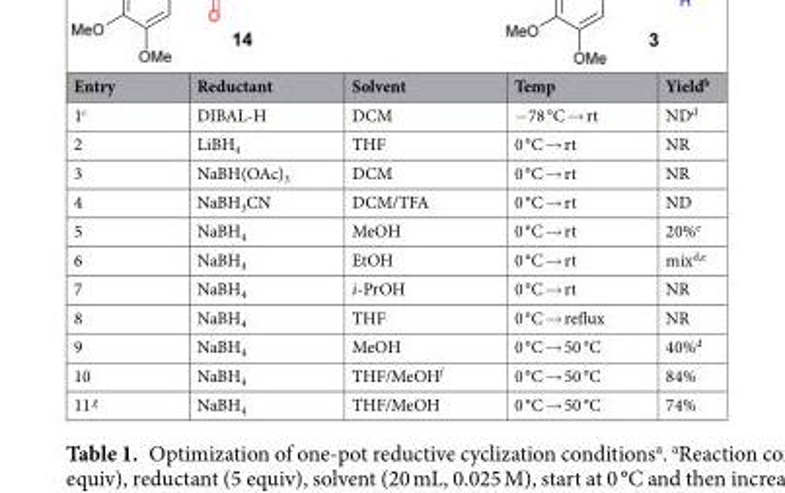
<table><thead><tr><td>Entry</td><td>Reductant</td><td>Solvent</td><td>Temp</td><td>Yield<sup>b</sup></td></tr></thead><tbody><tr><td>1<sup>c</sup></td><td>DIBAL-H</td><td>DCM</td><td>−78 °C → rt</td><td>ND<sup>d</sup></td></tr><tr><td>2</td><td>LiBH<sub>4</sub></td><td>THF</td><td>0 °C → rt</td><td>NR</td></tr><tr><td>3</td><td>NaBH(OAc)<sub>3</sub></td><td>DCM</td><td>0 °C → rt</td><td>NR</td></tr><tr><td>4</td><td>NaBH<sub>3</sub>CN</td><td>DCM/TFA</td><td>0 °C → rt</td><td>ND</td></tr><tr><td>5</td><td>NaBH<sub>4</sub></td><td>MeOH</td><td>0 °C → rt</td><td>20%<sup>e</sup></td></tr><tr><td>6</td><td>NaBH<sub>4</sub></td><td>EtOH</td><td>0 °C → rt</td><td>mix<sup>d,e</sup></td></tr><tr><td>7</td><td>NaBH<sub>4</sub></td><td>i-PrOH</td><td>0 °C → rt</td><td>NR</td></tr><tr><td>8</td><td>NaBH<sub>4</sub></td><td>THF</td><td>0 °C → reflux</td><td>NR</td></tr><tr><td>9</td><td>NaBH<sub>4</sub></td><td>MeOH</td><td>0 °C → 50 °C</td><td>40%<sup>d</sup></td></tr><tr><td>10</td><td>NaBH<sub>4</sub></td><td>THF/MeOH<sup>f</sup></td><td>0 °C → 50 °C</td><td>84%</td></tr><tr><td>11 <sup>g</sup></td><td>NaBH<sub>4</sub></td><td>THF/MeOH</td><td>0 °C → 50 °C</td><td>74%</td></tr></tbody></table>